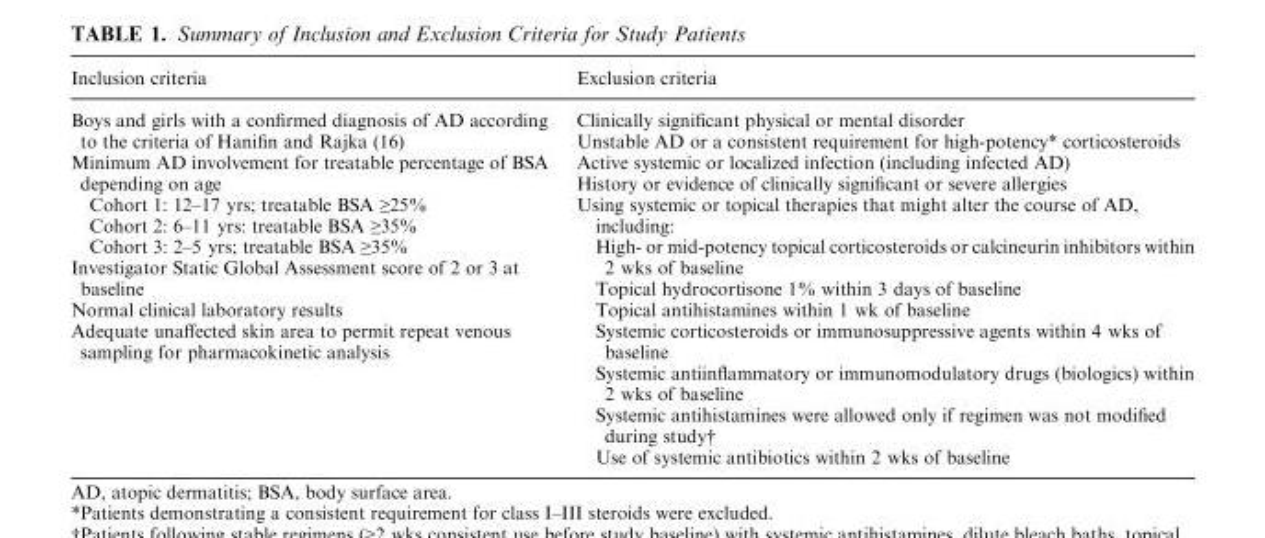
<table><thead><tr><td>Inclusion criteria</td><td>Exclusion criteria</td></tr></thead><tbody><tr><td>Boys and girls with a confirmed diagnosis of AD according to the criteria of Hanifin and Rajka (16) Minimum AD involvement for treatable percentage of BSA depending on age Cohort 1: 12–17 yrs; treatable BSA ≥25% Cohort 2: 6–11 yrs: treatable BSA ≥35% Cohort 3: 2–5 yrs; treatable BSA ≥35% Investigator Static Global Assessment score of 2 or 3 at baseline Normal clinical laboratory results Adequate unaffected skin area to permit repeat venous sampling for pharmacokinetic analysis</td><td>Clinically significant physical or mental disorder Unstable AD or a consistent requirement for high-potency* corticosteroids Active systemic or localized infection (including infected AD) History or evidence of clinically significant or severe allergies Using systemic or topical therapies that might alter the course of AD, including: High- or mid-potency topical corticosteroids or calcineurin inhibitors within 2 wks of baseline Topical hydrocortisone 1% within 3 days of baseline Topical antihistamines within 1 wk of baseline Systemic corticosteroids or immunosuppressive agents within 4 wks of baseline Systemic antiinflammatory or immunomodulatory drugs (biologics) within 2 wks of baseline Systemic antihistamines were allowed only if regimen was not modified during study† Use of systemic antibiotics within 2 wks of baseline</td></tr></tbody></table>